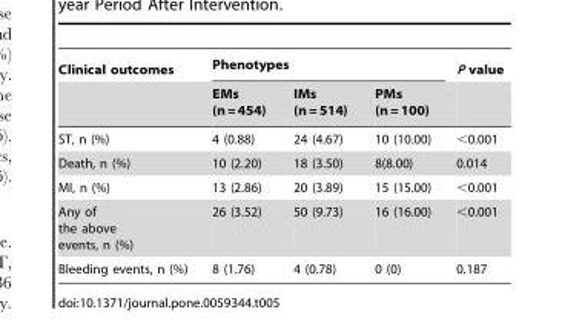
<table><thead><tr><td rowspan="2">Clinical outcomes</td><td colspan="3">Phenotypes</td><td rowspan="2">P value</td></tr><tr><td>EMs (n = 454)</td><td>IMs (n = 514)</td><td>PMs (n = 100)</td></tr></thead><tbody><tr><td>ST, n (%)</td><td>4 (0.88)</td><td>24 (4.67)</td><td>10 (10.00)</td><td>&lt;0.001</td></tr><tr><td>Death, n (%)</td><td>10 (2.20)</td><td>18 (3.50)</td><td>8(8.00)</td><td>0.014</td></tr><tr><td>MI, n (%)</td><td>13 (2.86)</td><td>20 (3.89)</td><td>15 (15.00)</td><td>&lt;0.001</td></tr><tr><td>Any of the above events, n (%)</td><td>26 (3.52)</td><td>50 (9.73)</td><td>16 (16.00)</td><td>&lt;0.001</td></tr><tr><td>Bleeding events, n (%)</td><td>8 (1.76)</td><td>4 (0.78)</td><td>0 (0)</td><td>0.187</td></tr></tbody></table>